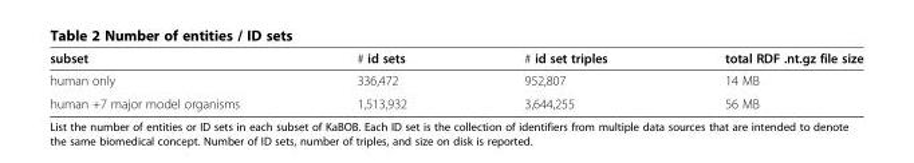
<table><thead><tr><td>subset</td><td># id sets</td><td># id set triples</td><td>total RDF .nt.gz file size</td></tr></thead><tbody><tr><td>human only</td><td>336,472</td><td>952,807</td><td>14 MB</td></tr><tr><td>human +7 major model organisms</td><td>1,513,932</td><td>3,644,255</td><td>56 MB</td></tr></tbody></table>